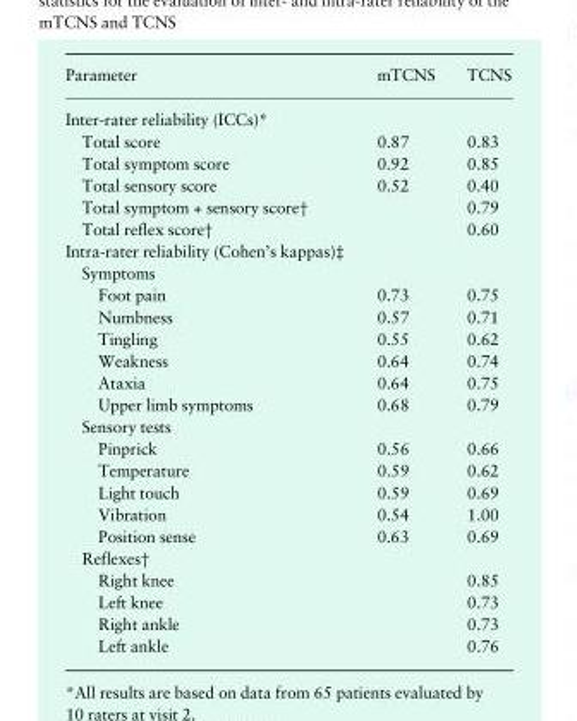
<table><thead><tr><td>Parameter</td><td>mTCNS</td><td>TCNS</td></tr></thead><tbody><tr><td colspan="3">Inter-rater reliability (ICCs)*</td></tr><tr><td>Total score</td><td>0.87</td><td>0.83</td></tr><tr><td>Total symptom score</td><td>0.92</td><td>0.85</td></tr><tr><td>Total sensory score</td><td>0.52</td><td>0.40</td></tr><tr><td>Total symptom + sensory score†</td><td></td><td>0.79</td></tr><tr><td>Total reflex score†</td><td></td><td>0.60</td></tr><tr><td colspan="3">Intra-rater reliability (Cohen’s kappas)‡</td></tr><tr><td colspan="3">Symptoms</td></tr><tr><td>Foot pain</td><td>0.73</td><td>0.75</td></tr><tr><td>Numbness</td><td>0.57</td><td>0.71</td></tr><tr><td>Tingling</td><td>0.55</td><td>0.62</td></tr><tr><td>Weakness</td><td>0.64</td><td>0.74</td></tr><tr><td>Ataxia</td><td>0.64</td><td>0.75</td></tr><tr><td>Upper limb symptoms</td><td>0.68</td><td>0.79</td></tr><tr><td colspan="3">Sensory tests</td></tr><tr><td>Pinprick</td><td>0.56</td><td>0.66</td></tr><tr><td>Temperature</td><td>0.59</td><td>0.62</td></tr><tr><td>Light touch</td><td>0.59</td><td>0.69</td></tr><tr><td>Vibration</td><td>0.54</td><td>1.00</td></tr><tr><td>Position sense</td><td>0.63</td><td>0.69</td></tr><tr><td colspan="3">Reflexes†</td></tr><tr><td>Right knee</td><td></td><td>0.85</td></tr><tr><td>Left knee</td><td></td><td>0.73</td></tr><tr><td>Right ankle</td><td></td><td>0.73</td></tr><tr><td>Left ankle</td><td></td><td>0.76</td></tr></tbody></table>